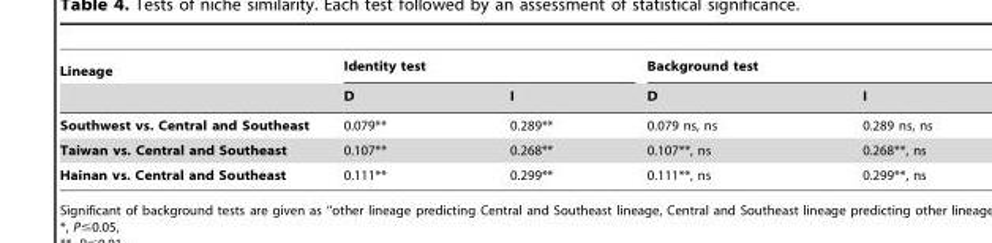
<table><thead><tr><td rowspan="2">Lineage</td><td colspan="2">Identity test</td><td colspan="2">Background test</td></tr><tr><td>D</td><td>I</td><td>D</td><td>I</td></tr></thead><tbody><tr><td>Southwest vs. Central and Southeast</td><td>0.079**</td><td>0.289**</td><td>0.079 ns, ns</td><td>0.289 ns, ns</td></tr><tr><td>Taiwan vs. Central and Southeast</td><td>0.107**</td><td>0.268**</td><td>0.107**, ns</td><td>0.268**, ns</td></tr><tr><td>Hainan vs. Central and Southeast</td><td>0.111**</td><td>0.299**</td><td>0.111**, ns</td><td>0.299**, ns</td></tr></tbody></table>